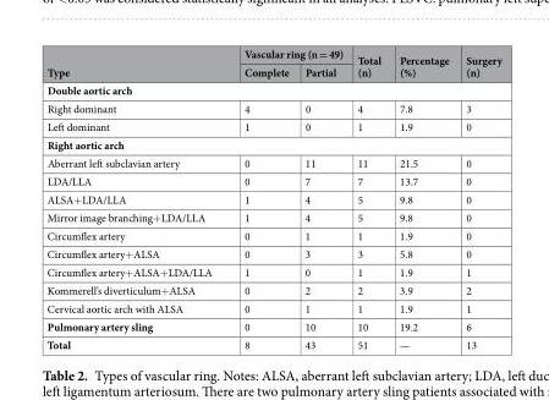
<table><thead><tr><td rowspan="2">Type</td><td colspan="2">Vascular ring (n = 49)</td><td rowspan="2">Total (n)</td><td rowspan="2">Percentage (%)</td><td rowspan="2">Surgery (n)</td></tr><tr><td>Complete</td><td>Partial</td></tr></thead><tbody><tr><td colspan="6">Double aortic arch</td></tr><tr><td>Right dominant</td><td>4</td><td>0</td><td>4</td><td>7.8</td><td>3</td></tr><tr><td>Left dominant</td><td>1</td><td>0</td><td>1</td><td>1.9</td><td>0</td></tr><tr><td colspan="6">Right aortic arch</td></tr><tr><td>Aberrant left subclavian artery</td><td>0</td><td>11</td><td>11</td><td>21.5</td><td>0</td></tr><tr><td>LDA/LLA</td><td>0</td><td>7</td><td>7</td><td>13.7</td><td>0</td></tr><tr><td>ALSA+LDA/LLA</td><td>1</td><td>4</td><td>5</td><td>9.8</td><td>0</td></tr><tr><td>Mirror image branching+LDA/LLA</td><td>1</td><td>4</td><td>5</td><td>9.8</td><td>0</td></tr><tr><td>Circumflex artery</td><td>0</td><td>1</td><td>1</td><td>1.9</td><td>0</td></tr><tr><td>Circumflex artery+ALSA</td><td>0</td><td>3</td><td>3</td><td>5.8</td><td>0</td></tr><tr><td>Circumflex artery+ALSA+LDA/LLA</td><td>1</td><td>0</td><td>1</td><td>1.9</td><td>1</td></tr><tr><td>Kommerell’s diverticulum+ALSA</td><td>0</td><td>2</td><td>2</td><td>3.9</td><td>2</td></tr><tr><td>Cervical aortic arch with ALSA</td><td>0</td><td>1</td><td>1</td><td>1.9</td><td>1</td></tr><tr><td>Pulmonary artery sling</td><td>0</td><td>10</td><td>10</td><td>19.2</td><td>6</td></tr><tr><td>Total</td><td>8</td><td>43</td><td>51</td><td>—</td><td>13</td></tr></tbody></table>